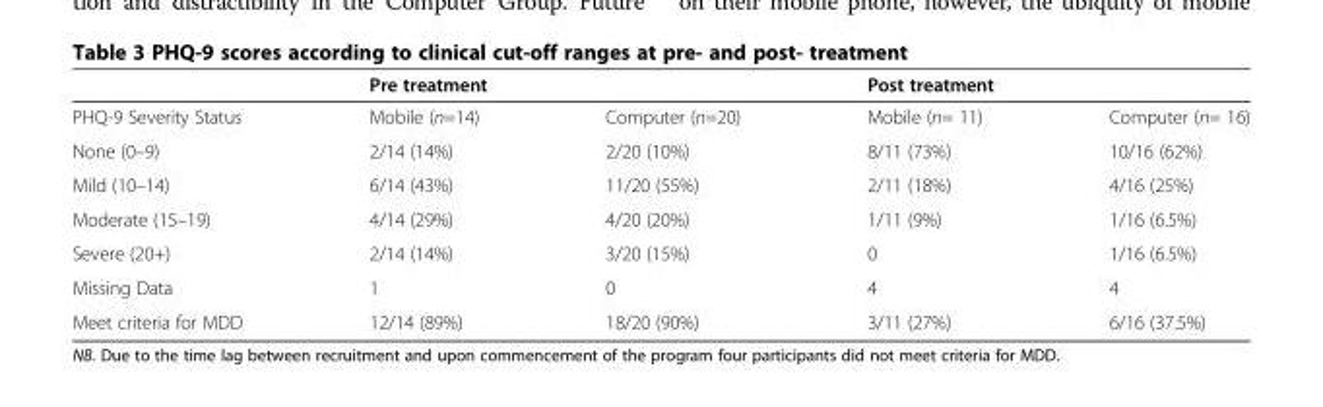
<table><thead><tr><td rowspan="2">PHQ-9 Severity Status</td><td colspan="2">Pre treatment</td><td colspan="2">Post treatment</td></tr><tr><td>Mobile (n=14)</td><td>Computer (n=20)</td><td>Mobile (n= 11)</td><td>Computer (n= 16)</td></tr></thead><tbody><tr><td>None (0–9)</td><td>2/14 (14%)</td><td>2/20 (10%)</td><td>8/11 (73%)</td><td>10/16 (62%)</td></tr><tr><td>Mild (10–14)</td><td>6/14 (43%)</td><td>11/20 (55%)</td><td>2/11 (18%)</td><td>4/16 (25%)</td></tr><tr><td>Moderate (15–19)</td><td>4/14 (29%)</td><td>4/20 (20%)</td><td>1/11 (9%)</td><td>1/16 (6.5%)</td></tr><tr><td>Severe (20+)</td><td>2/14 (14%)</td><td>3/20 (15%)</td><td>0</td><td>1/16 (6.5%)</td></tr><tr><td>Missing Data</td><td>1</td><td>0</td><td>4</td><td>4</td></tr><tr><td>Meet criteria for MDD</td><td>12/14 (89%)</td><td>18/20 (90%)</td><td>3/11 (27%)</td><td>6/16 (37.5%)</td></tr></tbody></table>